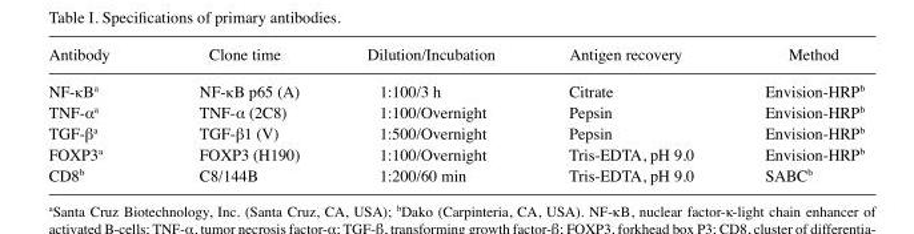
<table><thead><tr><td>Antibody</td><td>Clone time</td><td>Dilution/Incubation</td><td>Antigen recovery</td><td>Method</td></tr></thead><tbody><tr><td>NF-κB<sup>a</sup></td><td>NF-κB p65 (A)</td><td>1:100/3 h</td><td>Citrate</td><td>Envision-HRP<sup>b</sup></td></tr><tr><td>TNF-α<sup>a</sup></td><td>TNF-α (2C8)</td><td>1:100/Overnight</td><td>Pepsin</td><td>Envision-HRP<sup>b</sup></td></tr><tr><td>TGF-β<sup>a</sup></td><td>TGF-β1 (V)</td><td>1:500/Overnight</td><td>Pepsin</td><td>Envision-HRP<sup>b</sup></td></tr><tr><td>FOXP3<sup>a</sup></td><td>FOXP3 (H190)</td><td>1:100/Overnight</td><td>Tris-EDTA, pH 9.0</td><td>Envision-HRP<sup>b</sup></td></tr><tr><td>CD8<sup>b</sup></td><td>C8/144B</td><td>1:200/60 min</td><td>Tris-EDTA, pH 9.0</td><td>SABC<sup>b</sup></td></tr></tbody></table>